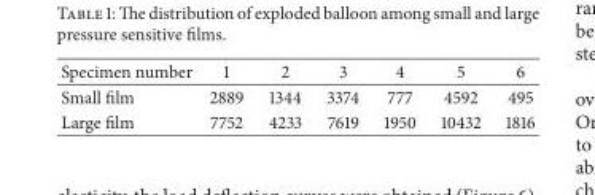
<table><thead><tr><td>Specimen number</td><td>1</td><td>2</td><td>3</td><td>4</td><td>5</td><td>6</td></tr></thead><tbody><tr><td>Small film</td><td>2889</td><td>1344</td><td>3374</td><td>777</td><td>4592</td><td>495</td></tr><tr><td>Large film</td><td>7752</td><td>4233</td><td>7619</td><td>1950</td><td>10432</td><td>1816</td></tr></tbody></table>